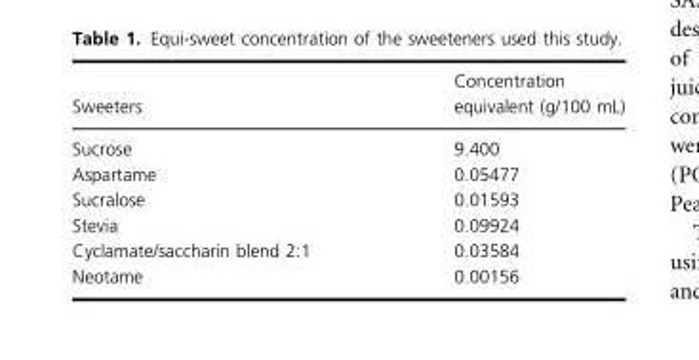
<table><thead><tr><td>Sweeters</td><td>Concentration equivalent (g/100 mL)</td></tr></thead><tbody><tr><td>Sucrose</td><td>9.400</td></tr><tr><td>Aspartame</td><td>0.05477</td></tr><tr><td>Sucralose</td><td>0.01593</td></tr><tr><td>Stevia</td><td>0.09924</td></tr><tr><td>Cyclamate/saccharin blend 2:1</td><td>0.03584</td></tr><tr><td>Neotame</td><td>0.00156</td></tr></tbody></table>